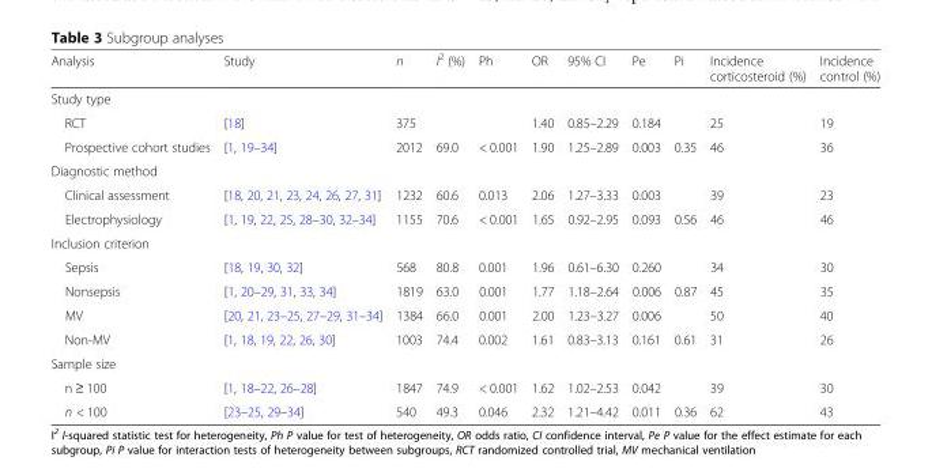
<table><thead><tr><td>Analysis</td><td>Study</td><td>n</td><td>I<sup>2</sup> (%)</td><td>Ph</td><td>OR</td><td>95% CI</td><td>Pe</td><td>Pi</td><td>Incidence corticosteroid (%)</td><td>Incidence control (%)</td></tr></thead><tbody><tr><td colspan="11">Study type</td></tr><tr><td>RCT</td><td>[18]</td><td>375</td><td></td><td></td><td>1.40</td><td>0.85–2.29</td><td>0.184</td><td></td><td>25</td><td>19</td></tr><tr><td>Prospective cohort studies</td><td>[1, 19–34]</td><td>2012</td><td>69.0</td><td>&lt; 0.001</td><td>1.90</td><td>1.25–2.89</td><td>0.003</td><td>0.35</td><td>46</td><td>36</td></tr><tr><td colspan="11">Diagnostic method</td></tr><tr><td>Clinical assessment</td><td>[18, 20, 21, 23, 24, 26, 27, 31]</td><td>1232</td><td>60.6</td><td>0.013</td><td>2.06</td><td>1.27–3.33</td><td>0.003</td><td></td><td>39</td><td>23</td></tr><tr><td>Electrophysiology</td><td>[1, 19, 22, 25, 28–30, 32–34]</td><td>1155</td><td>70.6</td><td>&lt; 0.001</td><td>1.65</td><td>0.92–2.95</td><td>0.093</td><td>0.56</td><td>46</td><td>46</td></tr><tr><td colspan="11">Inclusion criterion</td></tr><tr><td>Sepsis</td><td>[18, 19, 30, 32]</td><td>568</td><td>80.8</td><td>0.001</td><td>1.96</td><td>0.61–6.30</td><td>0.260</td><td></td><td>34</td><td>30</td></tr><tr><td>Nonsepsis</td><td>[1, 20–29, 31, 33, 34]</td><td>1819</td><td>63.0</td><td>0.001</td><td>1.77</td><td>1.18–2.64</td><td>0.006</td><td>0.87</td><td>45</td><td>35</td></tr><tr><td>MV</td><td>[20, 21, 23–25, 27–29, 31–34]</td><td>1384</td><td>66.0</td><td>0.001</td><td>2.00</td><td>1.23–3.27</td><td>0.006</td><td></td><td>50</td><td>40</td></tr><tr><td>Non-MV</td><td>[1, 18, 19, 22, 26, 30]</td><td>1003</td><td>74.4</td><td>0.002</td><td>1.61</td><td>0.83–3.13</td><td>0.161</td><td>0.61</td><td>31</td><td>26</td></tr><tr><td colspan="11">Sample size</td></tr><tr><td>n ≥ 100</td><td>[1, 18–22, 26–28]</td><td>1847</td><td>74.9</td><td>&lt; 0.001</td><td>1.62</td><td>1.02–2.53</td><td>0.042</td><td></td><td>39</td><td>30</td></tr><tr><td>n &lt; 100</td><td>[23–25, 29–34]</td><td>540</td><td>49.3</td><td>0.046</td><td>2.32</td><td>1.21–4.42</td><td>0.011</td><td>0.36</td><td>62</td><td>43</td></tr></tbody></table>